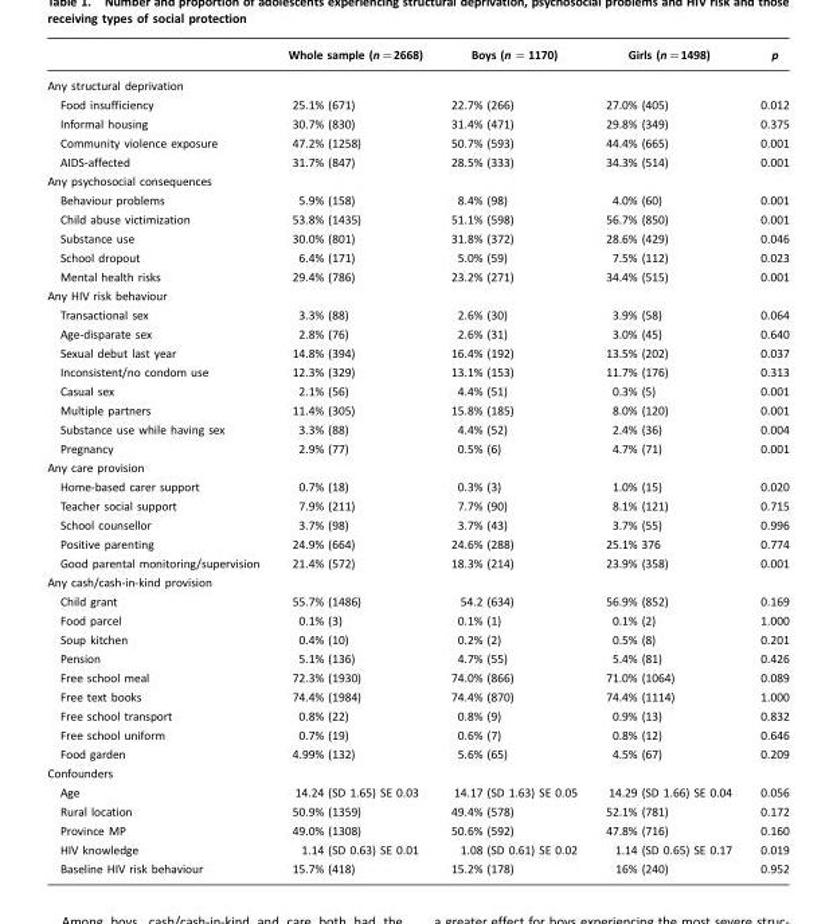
<table><thead><tr><td></td><td>Whole sample (n=2668)</td><td>Boys (n =1170)</td><td>Girls (n=1498)</td><td>p</td></tr></thead><tbody><tr><td colspan="5">Any structural deprivation</td></tr><tr><td>Food insufficiency</td><td>25.1% (671)</td><td>22.7% (266)</td><td>27.0% (405)</td><td>0.012</td></tr><tr><td>Informal housing</td><td>30.7% (830)</td><td>31.4% (471)</td><td>29.8% (349)</td><td>0.375</td></tr><tr><td>Community violence exposure</td><td>47.2% (1258)</td><td>50.7% (593)</td><td>44.4% (665)</td><td>0.001</td></tr><tr><td>AIDS-affected</td><td>31.7% (847)</td><td>28.5% (333)</td><td>34.3% (514)</td><td>0.001</td></tr><tr><td colspan="5">Any psychosocial consequences</td></tr><tr><td>Behaviour problems</td><td>5.9% (158)</td><td>8.4% (98)</td><td>4.0% (60)</td><td>0.001</td></tr><tr><td>Child abuse victimization</td><td>53.8% (1435)</td><td>51.1% (598)</td><td>56.7% (850)</td><td>0.001</td></tr><tr><td>Substance use</td><td>30.0% (801)</td><td>31.8% (372)</td><td>28.6% (429)</td><td>0.046</td></tr><tr><td>School dropout</td><td>6.4% (171)</td><td>5.0% (59)</td><td>7.5% (112)</td><td>0.023</td></tr><tr><td>Mental health risks</td><td>29.4% (786)</td><td>23.2% (271)</td><td>34.4% (515)</td><td>0.001</td></tr><tr><td colspan="5">Any HIV risk behaviour</td></tr><tr><td>Transactional sex</td><td>3.3% (88)</td><td>2.6% (30)</td><td>3.9% (58)</td><td>0.064</td></tr><tr><td>Age-disparate sex</td><td>2.8% (76)</td><td>2.6% (31)</td><td>3.0% (45)</td><td>0.640</td></tr><tr><td>Sexual debut last year</td><td>14.8% (394)</td><td>16.4% (192)</td><td>13.5% (202)</td><td>0.037</td></tr><tr><td>Inconsistent/no condom use</td><td>12.3% (329)</td><td>13.1% (153)</td><td>11.7% (176)</td><td>0.313</td></tr><tr><td>Casual sex</td><td>2.1% (56)</td><td>4.4% (51)</td><td>0.3% (5)</td><td>0.001</td></tr><tr><td>Multiple partners</td><td>11.4% (305)</td><td>15.8% (185)</td><td>8.0% (120)</td><td>0.001</td></tr><tr><td>Substance use while having sex</td><td>3.3% (88)</td><td>4.4% (52)</td><td>2.4% (36)</td><td>0.004</td></tr><tr><td>Pregnancy</td><td>2.9% (77)</td><td>0.5% (6)</td><td>4.7% (71)</td><td>0.001</td></tr><tr><td colspan="5">Any care provision</td></tr><tr><td>Home-based carer support</td><td>0.7% (18)</td><td>0.3% (3)</td><td>1.0% (15)</td><td>0.020</td></tr><tr><td>Teacher social support</td><td>7.9% (211)</td><td>7.7% (90)</td><td>8.1% (121)</td><td>0.715</td></tr><tr><td>School counsellor</td><td>3.7% (98)</td><td>3.7% (43)</td><td>3.7% (55)</td><td>0.996</td></tr><tr><td>Positive parenting</td><td>24.9% (664)</td><td>24.6% (288)</td><td>25.1% 376</td><td>0.774</td></tr><tr><td>Good parental monitoring/supervision</td><td>21.4% (572)</td><td>18.3% (214)</td><td>23.9% (358)</td><td>0.001</td></tr><tr><td colspan="5">Any cash/cash-in-kind provision</td></tr><tr><td>Child grant</td><td>55.7% (1486)</td><td>54.2 (634)</td><td>56.9% (852)</td><td>0.169</td></tr><tr><td>Food parcel</td><td>0.1% (3)</td><td>0.1% (1)</td><td>0.1% (2)</td><td>1.000</td></tr><tr><td>Soup kitchen</td><td>0.4% (10)</td><td>0.2% (2)</td><td>0.5% (8)</td><td>0.201</td></tr><tr><td>Pension</td><td>5.1% (136)</td><td>4.7% (55)</td><td>5.4% (81)</td><td>0.426</td></tr><tr><td>Free school meal</td><td>72.3% (1930)</td><td>74.0% (866)</td><td>71.0% (1064)</td><td>0.089</td></tr><tr><td>Free text books</td><td>74.4% (1984)</td><td>74.4% (870)</td><td>74.4% (1114)</td><td>1.000</td></tr><tr><td>Free school transport</td><td>0.8% (22)</td><td>0.8% (9)</td><td>0.9% (13)</td><td>0.832</td></tr><tr><td>Free school uniform</td><td>0.7% (19)</td><td>0.6% (7)</td><td>0.8% (12)</td><td>0.646</td></tr><tr><td>Food garden</td><td>4.99% (132)</td><td>5.6% (65)</td><td>4.5% (67)</td><td>0.209</td></tr><tr><td colspan="5">Confounders</td></tr><tr><td>Age</td><td>14.24 (SD 1.65) SE 0.03</td><td>14.17 (SD 1.63) SE 0.05</td><td>14.29 (SD 1.66) SE 0.04</td><td>0.056</td></tr><tr><td>Rural location</td><td>50.9% (1359)</td><td>49.4% (578)</td><td>52.1% (781)</td><td>0.172</td></tr><tr><td>Province MP</td><td>49.0% (1308)</td><td>50.6% (592)</td><td>47.8% (716)</td><td>0.160</td></tr><tr><td>HIV knowledge</td><td>1.14 (SD 0.63) SE 0.01</td><td>1.08 (SD 0.61) SE 0.02</td><td>1.14 (SD 0.65) SE 0.17</td><td>0.019</td></tr><tr><td>Baseline HIV risk behaviour</td><td>15.7% (418)</td><td>15.2% (178)</td><td>16% (240)</td><td>0.952</td></tr></tbody></table>